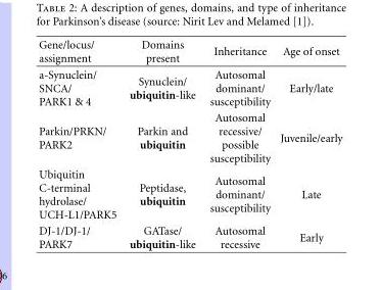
<table><thead><tr><td>Gene/locus/ assignment</td><td>Domains present</td><td>Inheritance</td><td>Age of onset</td></tr></thead><tbody><tr><td>a-Synuclein/ SNCA/ PARK1 &amp; 4</td><td>Synuclein/ ubiquitin-like</td><td>Autosomal dominant/ susceptibility</td><td>Early/late</td></tr><tr><td>Parkin/PRKN/ PARK2</td><td>Parkin and ubiquitin</td><td>Autosomal recessive/ possible susceptibility</td><td>Juvenile/early</td></tr><tr><td>Ubiquitin C-terminal hydrolase/ UCH-L1/PARK5</td><td>Peptidase, ubiquitin</td><td>Autosomal dominant/ susceptibility</td><td>Late</td></tr><tr><td>DJ-1/DJ-1/ PARK7</td><td>GATase/ ubiquitin-like</td><td>Autosomal recessive</td><td>Early</td></tr></tbody></table>